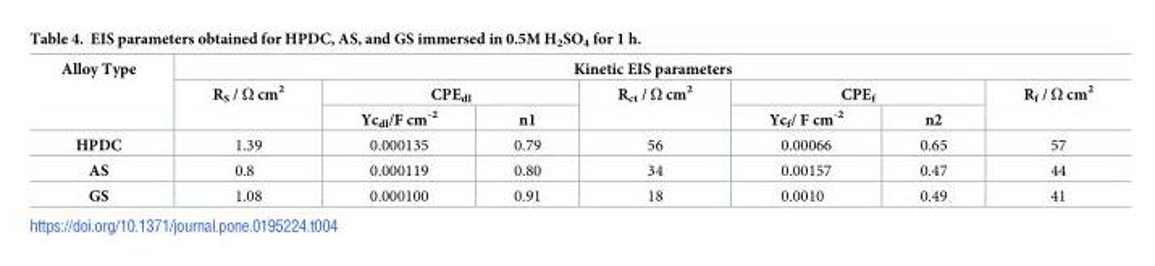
<table><thead><tr><td rowspan="3">Alloy Type</td><td colspan="7">Kinetic EIS parameters</td></tr><tr><td rowspan="2">R<sub>S</sub> / Ω cm<sup>2</sup></td><td colspan="2">CPE<sub>dl</sub></td><td rowspan="2">R<sub>ct</sub> / Ω cm<sup>2</sup></td><td colspan="2">CPE<sub>f</sub></td><td rowspan="2">R<sub>f</sub> / Ω cm<sup>2</sup></td></tr><tr><td>Yc<sub>dl</sub>/F cm<sup>-2</sup></td><td>n1</td><td>Yc<sub>f</sub>/ F cm<sup>-2</sup></td><td>n2</td></tr></thead><tbody><tr><td>HPDC</td><td>1.39</td><td>0.000135</td><td>0.79</td><td>56</td><td>0.00066</td><td>0.65</td><td>57</td></tr><tr><td>AS</td><td>0.8</td><td>0.000119</td><td>0.80</td><td>34</td><td>0.00157</td><td>0.47</td><td>44</td></tr><tr><td>GS</td><td>1.08</td><td>0.000100</td><td>0.91</td><td>18</td><td>0.0010</td><td>0.49</td><td>41</td></tr></tbody></table>